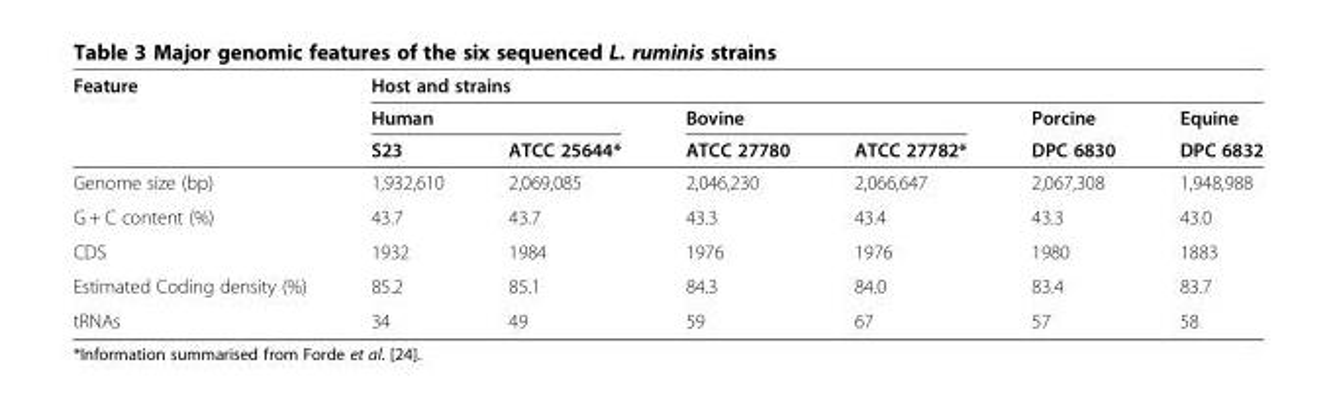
<table><thead><tr><td rowspan="3">Feature</td><td colspan="6">Host and strains</td></tr><tr><td colspan="2">Human</td><td colspan="2">Bovine</td><td rowspan="2">Porcine DPC 6830</td><td rowspan="2">Equine DPC 6832</td></tr><tr><td>S23</td><td>ATCC 25644*</td><td>ATCC 27780</td><td>ATCC 27782*</td></tr></thead><tbody><tr><td>Genome size (bp)</td><td>1,932,610</td><td>2,069,085</td><td>2,046,230</td><td>2,066,647</td><td>2,067,308</td><td>1,948,988</td></tr><tr><td>G + C content (%)</td><td>43.7</td><td>43.7</td><td>43.3</td><td>43.4</td><td>43.3</td><td>43.0</td></tr><tr><td>CDS</td><td>1932</td><td>1984</td><td>1976</td><td>1976</td><td>1980</td><td>1883</td></tr><tr><td>Estimated Coding density (%)</td><td>85.2</td><td>85.1</td><td>84.3</td><td>84.0</td><td>83.4</td><td>83.7</td></tr><tr><td>tRNAs</td><td>34</td><td>49</td><td>59</td><td>67</td><td>57</td><td>58</td></tr></tbody></table>